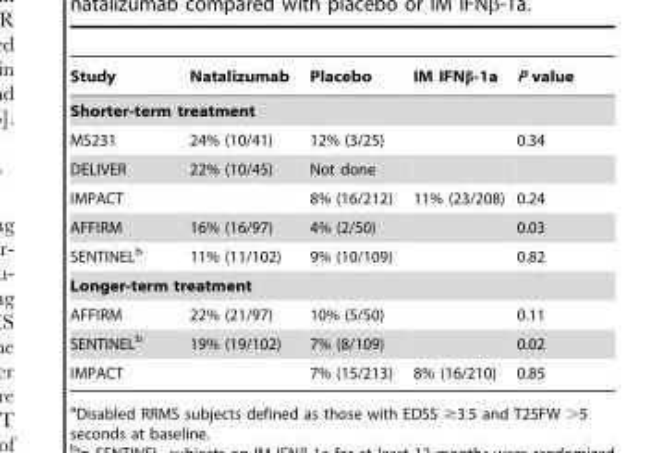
<table><thead><tr><td>Study</td><td>Natalizumab</td><td>Placebo</td><td>IM IFNβ-1a</td><td>P value</td></tr></thead><tbody><tr><td colspan="5">Shorter-term treatment</td></tr><tr><td>MS231</td><td>24% (10/41)</td><td>12% (3/25)</td><td></td><td>0.34</td></tr><tr><td>DELIVER</td><td>22% (10/45)</td><td>Not done</td><td></td><td></td></tr><tr><td>IMPACT</td><td></td><td>8% (16/212)</td><td>11% (23/208)</td><td>0.24</td></tr><tr><td>AFFIRM</td><td>16% (16/97)</td><td>4% (2/50)</td><td></td><td>0.03</td></tr><tr><td>SENTINEL<sup>b</sup></td><td>11% (11/102)</td><td>9% (10/109)</td><td></td><td>0.82</td></tr><tr><td colspan="5">Longer-term treatment</td></tr><tr><td>AFFIRM</td><td>22% (21/97)</td><td>10% (5/50)</td><td></td><td>0.11</td></tr><tr><td>SENTINEL<sup>b</sup></td><td>19% (19/102)</td><td>7% (8/109)</td><td></td><td>0.02</td></tr><tr><td>IMPACT</td><td></td><td>7% (15/213)</td><td>8% (16/210)</td><td>0.85</td></tr></tbody></table>